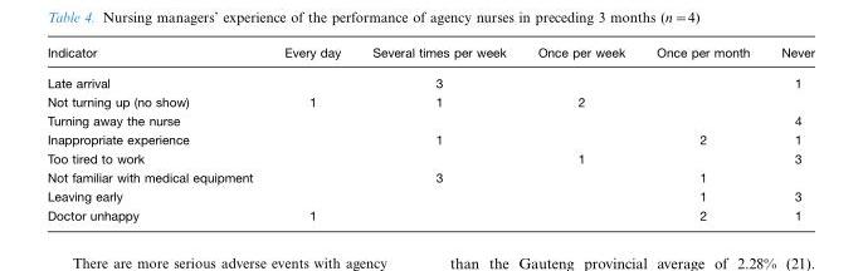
<table><thead><tr><td>Indicator</td><td>Every day</td><td>Several times per week</td><td>Once per week</td><td>Once per month</td><td>Never</td></tr></thead><tbody><tr><td>Late arrival</td><td></td><td>3</td><td></td><td></td><td>1</td></tr><tr><td>Not turning up (no show)</td><td>1</td><td>1</td><td>2</td><td></td><td></td></tr><tr><td>Turning away the nurse</td><td></td><td></td><td></td><td></td><td>4</td></tr><tr><td>Inappropriate experience</td><td></td><td>1</td><td></td><td>2</td><td>1</td></tr><tr><td>Too tired to work</td><td></td><td></td><td>1</td><td></td><td>3</td></tr><tr><td>Not familiar with medical equipment</td><td></td><td>3</td><td></td><td>1</td><td></td></tr><tr><td>Leaving early</td><td></td><td></td><td></td><td>1</td><td>3</td></tr><tr><td>Doctor unhappy</td><td>1</td><td></td><td></td><td>2</td><td>1</td></tr></tbody></table>